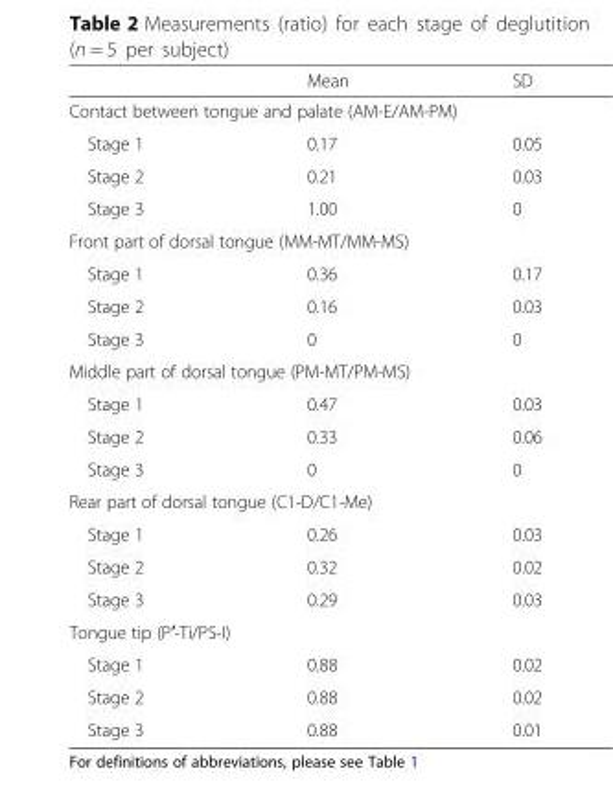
<table><thead><tr><td></td><td>Mean</td><td>SD</td></tr></thead><tbody><tr><td colspan="3">Contact between tongue and palate (AM-E/AM-PM)</td></tr><tr><td>Stage 1</td><td>0.17</td><td>0.05</td></tr><tr><td>Stage 2</td><td>0.21</td><td>0.03</td></tr><tr><td>Stage 3</td><td>1.00</td><td>0</td></tr><tr><td colspan="3">Front part of dorsal tongue (MM-MT/MM-MS)</td></tr><tr><td>Stage 1</td><td>0.36</td><td>0.17</td></tr><tr><td>Stage 2</td><td>0.16</td><td>0.03</td></tr><tr><td>Stage 3</td><td>0</td><td>0</td></tr><tr><td colspan="3">Middle part of dorsal tongue (PM-MT/PM-MS)</td></tr><tr><td>Stage 1</td><td>0.47</td><td>0.03</td></tr><tr><td>Stage 2</td><td>0.33</td><td>0.06</td></tr><tr><td>Stage 3</td><td>0</td><td>0</td></tr><tr><td colspan="3">Rear part of dorsal tongue (C1-D/C1-Me)</td></tr><tr><td>Stage 1</td><td>0.26</td><td>0.03</td></tr><tr><td>Stage 2</td><td>0.32</td><td>0.02</td></tr><tr><td>Stage 3</td><td>0.29</td><td>0.03</td></tr><tr><td colspan="3">Tongue tip (P′-Ti/PS-I)</td></tr><tr><td>Stage 1</td><td>0.88</td><td>0.02</td></tr><tr><td>Stage 2</td><td>0.88</td><td>0.02</td></tr><tr><td>Stage 3</td><td>0.88</td><td>0.01</td></tr></tbody></table>